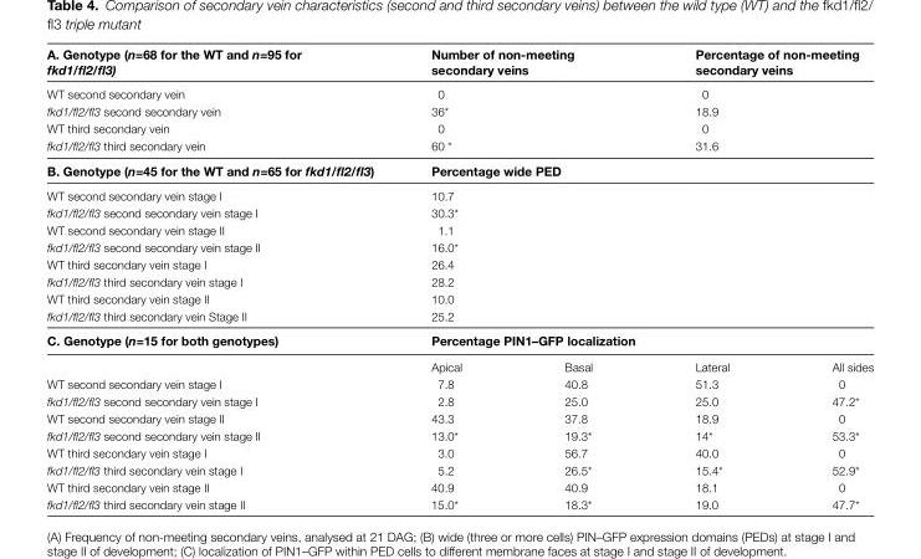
<table><thead><tr><td>A. Genotype (n=68 for the WT and n=95 for fkd1/fl2/fl3)</td><td colspan="2">Number of non-meeting secondary veins</td><td colspan="2">Percentage of non-meeting secondary veins</td></tr></thead><tbody><tr><td>WT second secondary vein</td><td colspan="2">0</td><td colspan="2">0</td></tr><tr><td>fkd1/fl2/fl3 second secondary vein</td><td colspan="2">36*</td><td colspan="2">18.9</td></tr><tr><td>WT third secondary vein</td><td colspan="2">0</td><td colspan="2">0</td></tr><tr><td>fkd1/fl2/fl3 third secondary vein</td><td colspan="2">60 *</td><td colspan="2">31.6</td></tr><tr><td>B. Genotype (n=45 for the WT and n=65 for fkd1/fl2/fl3)</td><td colspan="4">Percentage wide PED</td></tr><tr><td>WT second secondary vein stage I</td><td colspan="4">10.7</td></tr><tr><td>fkd1/fl2/fl3 second secondary vein stage I</td><td colspan="4">30.3*</td></tr><tr><td>WT second secondary vein stage II</td><td colspan="4">1.1</td></tr><tr><td>fkd1/fl2/fl3 second secondary vein stage II</td><td colspan="4">16.0*</td></tr><tr><td>WT third secondary vein stage I</td><td colspan="4">26.4</td></tr><tr><td>fkd1/fl2/fl3 third secondary vein stage I</td><td colspan="4">28.2</td></tr><tr><td>WT third secondary vein stage II</td><td colspan="4">10.0</td></tr><tr><td>fkd1/fl2/fl3 third secondary vein Stage II</td><td colspan="4">25.2</td></tr><tr><td rowspan="2">C. Genotype (n=15 for both genotypes)</td><td colspan="4">Percentage PIN1–GFP localization</td></tr><tr><td>Apical</td><td>Basal</td><td>Lateral</td><td>All sides</td></tr><tr><td>WT second secondary vein stage I</td><td>7.8</td><td>40.8</td><td>51.3</td><td>0</td></tr><tr><td>fkd1/fl2/fl3 second secondary vein stage I</td><td>2.8</td><td>25.0</td><td>25.0</td><td>47.2*</td></tr><tr><td>WT second secondary vein stage II</td><td>43.3</td><td>37.8</td><td>18.9</td><td>0</td></tr><tr><td>fkd1/fl2/fl3 second secondary vein stage II</td><td>13.0*</td><td>19.3*</td><td>14*</td><td>53.3*</td></tr><tr><td>WT third secondary vein stage I</td><td>3.0</td><td>56.7</td><td>40.0</td><td>0</td></tr><tr><td>fkd1/fl2/fl3 third secondary vein stage I</td><td>5.2</td><td>26.5*</td><td>15.4*</td><td>52.9*</td></tr><tr><td>WT third secondary vein stage II</td><td>40.9</td><td>40.9</td><td>18.1</td><td>0</td></tr><tr><td>fkd1/fl2/fl3 third secondary vein stage II</td><td>15.0*</td><td>18.3*</td><td>19.0</td><td>47.7*</td></tr></tbody></table>